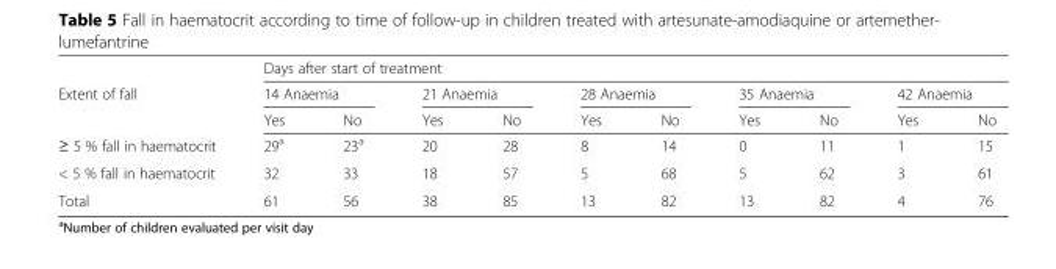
<table><thead><tr><td rowspan="3">Extent of fall</td><td colspan="10">Days after start of treatment</td></tr><tr><td colspan="2">14 Anaemia</td><td colspan="2">21 Anaemia</td><td colspan="2">28 Anaemia</td><td colspan="2">35 Anaemia</td><td colspan="2">42 Anaemia</td></tr><tr><td>Yes</td><td>No</td><td>Yes</td><td>No</td><td>Yes</td><td>No</td><td>Yes</td><td>No</td><td>Yes</td><td>No</td></tr></thead><tbody><tr><td>≥ 5 % fall in haematocrit</td><td>29<sup>a</sup></td><td>23<sup>a</sup></td><td>20</td><td>28</td><td>8</td><td>14</td><td>0</td><td>11</td><td>1</td><td>15</td></tr><tr><td>&lt; 5 % fall in haematocrit</td><td>32</td><td>33</td><td>18</td><td>57</td><td>5</td><td>68</td><td>5</td><td>62</td><td>3</td><td>61</td></tr><tr><td>Total</td><td>61</td><td>56</td><td>38</td><td>85</td><td>13</td><td>82</td><td>13</td><td>82</td><td>4</td><td>76</td></tr></tbody></table>